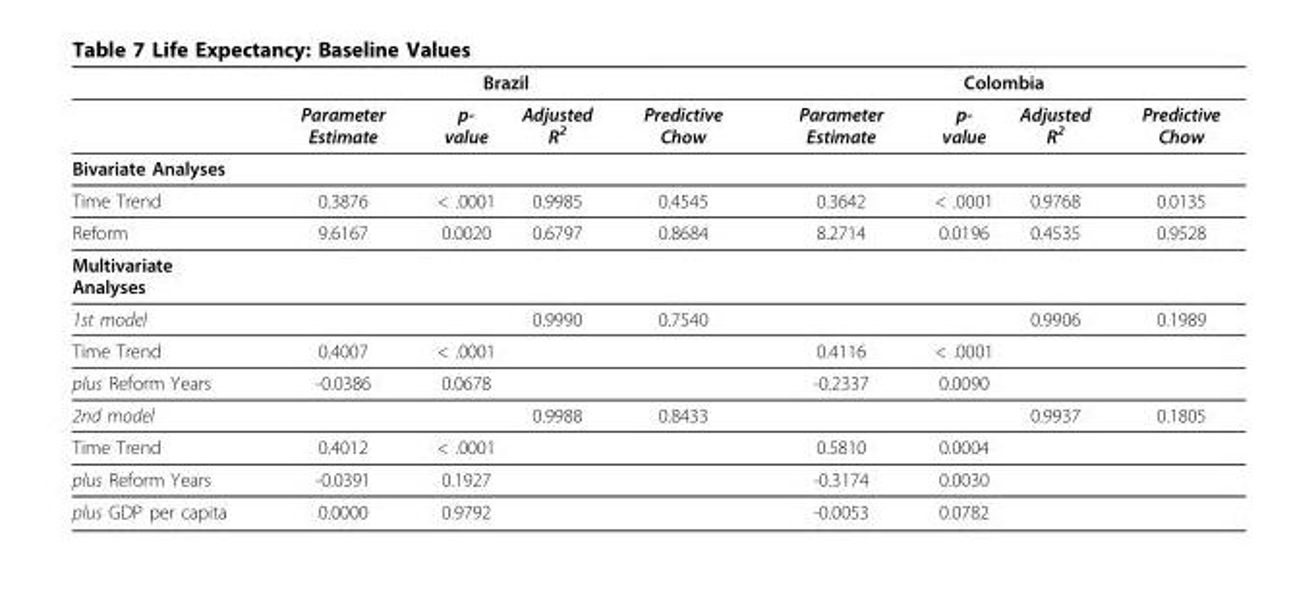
<table><thead><tr><td rowspan="2"></td><td colspan="4">Brazil</td><td colspan="4">Colombia</td></tr><tr><td>Parameter Estimate</td><td>p- value</td><td>Adjusted R2</td><td>Predictive Chow</td><td>Parameter Estimate</td><td>p- value</td><td>Adjusted R2</td><td>Predictive Chow</td></tr></thead><tbody><tr><td colspan="9">Bivariate Analyses</td></tr><tr><td>Time Trend</td><td>0.3876</td><td>&lt; .0001</td><td>0.9985</td><td>0.4545</td><td>0.3642</td><td>&lt; .0001</td><td>0.9768</td><td>0.0135</td></tr><tr><td>Reform</td><td>9.6167</td><td>0.0020</td><td>0.6797</td><td>0.8684</td><td>8.2714</td><td>0.0196</td><td>0.4535</td><td>0.9528</td></tr><tr><td colspan="9">Multivariate Analyses</td></tr><tr><td>1st model</td><td></td><td></td><td>0.9990</td><td>0.7540</td><td></td><td></td><td>0.9906</td><td>0.1989</td></tr><tr><td>Time Trend</td><td>0.4007</td><td>&lt; .0001</td><td></td><td></td><td>0.4116</td><td>&lt; .0001</td><td></td><td></td></tr><tr><td>plus Reform Years</td><td>-0.0386</td><td>0.0678</td><td></td><td></td><td>-0.2337</td><td>0.0090</td><td></td><td></td></tr><tr><td>2nd model</td><td></td><td></td><td>0.9988</td><td>0.8433</td><td></td><td></td><td>0.9937</td><td>0.1805</td></tr><tr><td>Time Trend</td><td>0.4012</td><td>&lt; .0001</td><td></td><td></td><td>0.5810</td><td>0.0004</td><td></td><td></td></tr><tr><td>plus Reform Years</td><td>-0.0391</td><td>0.1927</td><td></td><td></td><td>-0.3174</td><td>0.0030</td><td></td><td></td></tr><tr><td>plus GDP per capita</td><td>0.0000</td><td>0.9792</td><td></td><td></td><td>-0.0053</td><td>0.0782</td><td></td><td></td></tr></tbody></table>